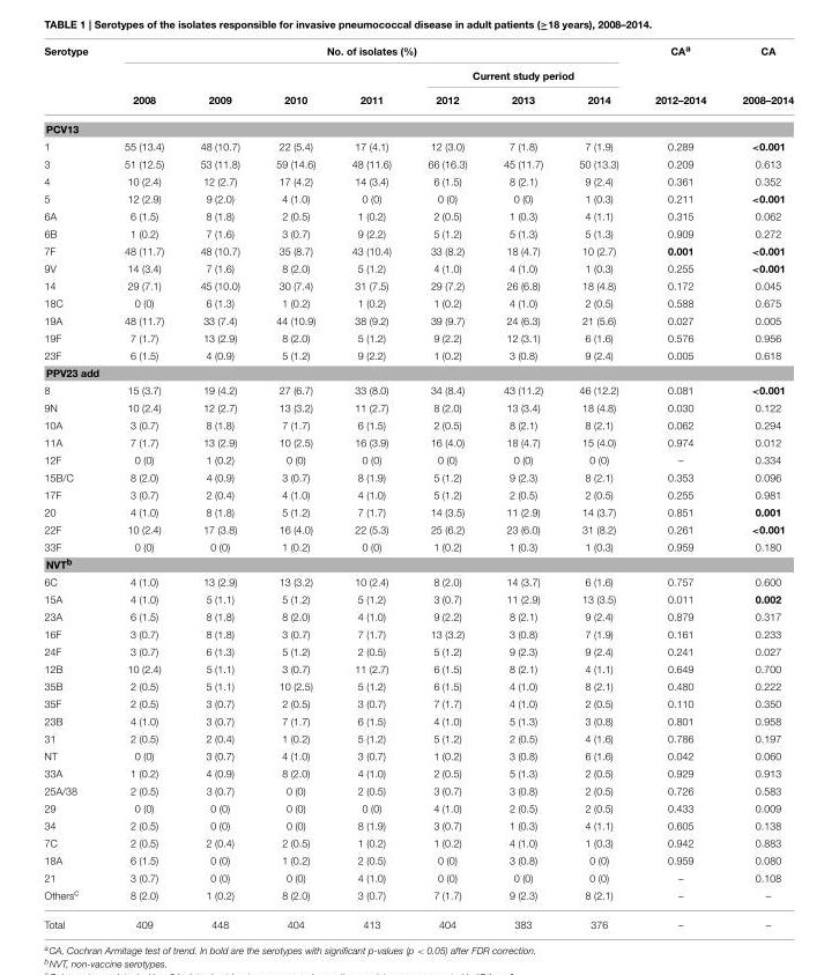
<table><thead><tr><td rowspan="3">Serotype</td><td colspan="7">No. of isolates (%)</td><td rowspan="3">CA<sup>a</sup> 2012–2014</td><td rowspan="3">CA 2008–2014</td></tr><tr><td rowspan="2">2008</td><td rowspan="2">2009</td><td rowspan="2">2010</td><td rowspan="2">2011</td><td colspan="3">Current study period</td></tr><tr><td>2012</td><td>2013</td><td>2014</td></tr></thead><tbody><tr><td colspan="10">PCV13</td></tr><tr><td>1</td><td>55 (13.4)</td><td>48 (10.7)</td><td>22 (5.4)</td><td>17 (4.1)</td><td>12 (3.0)</td><td>7 (1.8)</td><td>7 (1.9)</td><td>0.289</td><td>&lt;0.001</td></tr><tr><td>3</td><td>51 (12.5)</td><td>53 (11.8)</td><td>59 (14.6)</td><td>48 (11.6)</td><td>66 (16.3)</td><td>45 (11.7)</td><td>50 (13.3)</td><td>0.209</td><td>0.613</td></tr><tr><td>4</td><td>10 (2.4)</td><td>12 (2.7)</td><td>17 (4.2)</td><td>14 (3.4)</td><td>6 (1.5)</td><td>8 (2.1)</td><td>9 (2.4)</td><td>0.361</td><td>0.352</td></tr><tr><td>5</td><td>12 (2.9)</td><td>9 (2.0)</td><td>4 (1.0)</td><td>0 (0)</td><td>0 (0)</td><td>0 (0)</td><td>1 (0.3)</td><td>0.211</td><td>&lt;0.001</td></tr><tr><td>6A</td><td>6 (1.5)</td><td>8 (1.8)</td><td>2 (0.5)</td><td>1 (0.2)</td><td>2 (0.5)</td><td>1 (0.3)</td><td>4 (1.1)</td><td>0.315</td><td>0.062</td></tr><tr><td>6B</td><td>1 (0.2)</td><td>7 (1.6)</td><td>3 (0.7)</td><td>9 (2.2)</td><td>5 (1.2)</td><td>5 (1.3)</td><td>5 (1.3)</td><td>0.909</td><td>0.272</td></tr><tr><td>7F</td><td>48 (11.7)</td><td>48 (10.7)</td><td>35 (8.7)</td><td>43 (10.4)</td><td>33 (8.2)</td><td>18 (4.7)</td><td>10 (2.7)</td><td>0.001</td><td>&lt;0.001</td></tr><tr><td>9V</td><td>14 (3.4)</td><td>7 (1.6)</td><td>8 (2.0)</td><td>5 (1.2)</td><td>4 (1.0)</td><td>4 (1.0)</td><td>1 (0.3)</td><td>0.255</td><td>&lt;0.001</td></tr><tr><td>14</td><td>29 (7.1)</td><td>45 (10.0)</td><td>30 (7.4)</td><td>31 (7.5)</td><td>29 (7.2)</td><td>26 (6.8)</td><td>18 (4.8)</td><td>0.172</td><td>0.045</td></tr><tr><td>18C</td><td>0 (0)</td><td>6 (1.3)</td><td>1 (0.2)</td><td>1 (0.2)</td><td>1 (0.2)</td><td>4 (1.0)</td><td>2 (0.5)</td><td>0.588</td><td>0.675</td></tr><tr><td>19A</td><td>48 (11.7)</td><td>33 (7.4)</td><td>44 (10.9)</td><td>38 (9.2)</td><td>39 (9.7)</td><td>24 (6.3)</td><td>21 (5.6)</td><td>0.027</td><td>0.005</td></tr><tr><td>19F</td><td>7 (1.7)</td><td>13 (2.9)</td><td>8 (2.0)</td><td>5 (1.2)</td><td>9 (2.2)</td><td>12 (3.1)</td><td>6 (1.6)</td><td>0.576</td><td>0.956</td></tr><tr><td>23F</td><td>6 (1.5)</td><td>4 (0.9)</td><td>5 (1.2)</td><td>9 (2.2)</td><td>1 (0.2)</td><td>3 (0.8)</td><td>9 (2.4)</td><td>0.005</td><td>0.618</td></tr><tr><td colspan="10">PPV23 add</td></tr><tr><td>8</td><td>15 (3.7)</td><td>19 (4.2)</td><td>27 (6.7)</td><td>33 (8.0)</td><td>34 (8.4)</td><td>43 (11.2)</td><td>46 (12.2)</td><td>0.081</td><td>&lt;0.001</td></tr><tr><td>9N</td><td>10 (2.4)</td><td>12 (2.7)</td><td>13 (3.2)</td><td>11 (2.7)</td><td>8 (2.0)</td><td>13 (3.4)</td><td>18 (4.8)</td><td>0.030</td><td>0.122</td></tr><tr><td>10A</td><td>3 (0.7)</td><td>8 (1.8)</td><td>7 (1.7)</td><td>6 (1.5)</td><td>2 (0.5)</td><td>8 (2.1)</td><td>8 (2.1)</td><td>0.062</td><td>0.294</td></tr><tr><td>11A</td><td>7 (1.7)</td><td>13 (2.9)</td><td>10 (2.5)</td><td>16 (3.9)</td><td>16 (4.0)</td><td>18 (4.7)</td><td>15 (4.0)</td><td>0.974</td><td>0.012</td></tr><tr><td>12F</td><td>0 (0)</td><td>1 (0.2)</td><td>0 (0)</td><td>0 (0)</td><td>0 (0)</td><td>0 (0)</td><td>0 (0)</td><td>–</td><td>0.334</td></tr><tr><td>15B/C</td><td>8 (2.0)</td><td>4 (0.9)</td><td>3 (0.7)</td><td>8 (1.9)</td><td>5 (1.2)</td><td>9 (2.3)</td><td>8 (2.1)</td><td>0.353</td><td>0.096</td></tr><tr><td>17F</td><td>3 (0.7)</td><td>2 (0.4)</td><td>4 (1.0)</td><td>4 (1.0)</td><td>5 (1.2)</td><td>2 (0.5)</td><td>2 (0.5)</td><td>0.255</td><td>0.981</td></tr><tr><td>20</td><td>4 (1.0)</td><td>8 (1.8)</td><td>5 (1.2)</td><td>7 (1.7)</td><td>14 (3.5)</td><td>11 (2.9)</td><td>14 (3.7)</td><td>0.851</td><td>0.001</td></tr><tr><td>22F</td><td>10 (2.4)</td><td>17 (3.8)</td><td>16 (4.0)</td><td>22 (5.3)</td><td>25 (6.2)</td><td>23 (6.0)</td><td>31 (8.2)</td><td>0.261</td><td>&lt;0.001</td></tr><tr><td>33F</td><td>0 (0)</td><td>0 (0)</td><td>1 (0.2)</td><td>0 (0)</td><td>1 (0.2)</td><td>1 (0.3)</td><td>1 (0.3)</td><td>0.959</td><td>0.180</td></tr><tr><td colspan="10">NVT<sup>b</sup></td></tr><tr><td>6C</td><td>4 (1.0)</td><td>13 (2.9)</td><td>13 (3.2)</td><td>10 (2.4)</td><td>8 (2.0)</td><td>14 (3.7)</td><td>6 (1.6)</td><td>0.757</td><td>0.600</td></tr><tr><td>15A</td><td>4 (1.0)</td><td>5 (1.1)</td><td>5 (1.2)</td><td>5 (1.2)</td><td>3 (0.7)</td><td>11 (2.9)</td><td>13 (3.5)</td><td>0.011</td><td>0.002</td></tr><tr><td>23A</td><td>6 (1.5)</td><td>8 (1.8)</td><td>8 (2.0)</td><td>4 (1.0)</td><td>9 (2.2)</td><td>8 (2.1)</td><td>9 (2.4)</td><td>0.879</td><td>0.317</td></tr><tr><td>16F</td><td>3 (0.7)</td><td>8 (1.8)</td><td>3 (0.7)</td><td>7 (1.7)</td><td>13 (3.2)</td><td>3 (0.8)</td><td>7 (1.9)</td><td>0.161</td><td>0.233</td></tr><tr><td>24F</td><td>3 (0.7)</td><td>6 (1.3)</td><td>5 (1.2)</td><td>2 (0.5)</td><td>5 (1.2)</td><td>9 (2.3)</td><td>9 (2.4)</td><td>0.241</td><td>0.027</td></tr><tr><td>12B</td><td>10 (2.4)</td><td>5 (1.1)</td><td>3 (0.7)</td><td>11 (2.7)</td><td>6 (1.5)</td><td>8 (2.1)</td><td>4 (1.1)</td><td>0.649</td><td>0.700</td></tr><tr><td>35B</td><td>2 (0.5)</td><td>5 (1.1)</td><td>10 (2.5)</td><td>5 (1.2)</td><td>6 (1.5)</td><td>4 (1.0)</td><td>8 (2.1)</td><td>0.480</td><td>0.222</td></tr><tr><td>35F</td><td>2 (0.5)</td><td>3 (0.7)</td><td>2 (0.5)</td><td>3 (0.7)</td><td>7 (1.7)</td><td>4 (1.0)</td><td>2 (0.5)</td><td>0.110</td><td>0.350</td></tr><tr><td>23B</td><td>4 (1.0)</td><td>3 (0.7)</td><td>7 (1.7)</td><td>6 (1.5)</td><td>4 (1.0)</td><td>5 (1.3)</td><td>3 (0.8)</td><td>0.801</td><td>0.958</td></tr><tr><td>31</td><td>2 (0.5)</td><td>2 (0.4)</td><td>1 (0.2)</td><td>5 (1.2)</td><td>5 (1.2)</td><td>2 (0.5)</td><td>4 (1.6)</td><td>0.786</td><td>0.197</td></tr><tr><td>NT</td><td>0 (0)</td><td>3 (0.7)</td><td>4 (1.0)</td><td>3 (0.7)</td><td>1 (0.2)</td><td>3 (0.8)</td><td>6 (1.6)</td><td>0.042</td><td>0.060</td></tr><tr><td>33A</td><td>1 (0.2)</td><td>4 (0.9)</td><td>8 (2.0)</td><td>4 (1.0)</td><td>2 (0.5)</td><td>5 (1.3)</td><td>2 (0.5)</td><td>0.929</td><td>0.913</td></tr><tr><td>25A/38</td><td>2 (0.5)</td><td>3 (0.7)</td><td>0 (0)</td><td>2 (0.5)</td><td>3 (0.7)</td><td>3 (0.8)</td><td>2 (0.5)</td><td>0.726</td><td>0.583</td></tr><tr><td>29</td><td>0 (0)</td><td>0 (0)</td><td>0 (0)</td><td>0 (0)</td><td>4 (1.0)</td><td>2 (0.5)</td><td>2 (0.5)</td><td>0.433</td><td>0.009</td></tr><tr><td>34</td><td>2 (0.5)</td><td>0 (0)</td><td>0 (0)</td><td>8 (1.9)</td><td>3 (0.7)</td><td>1 (0.3)</td><td>4 (1.1)</td><td>0.605</td><td>0.138</td></tr><tr><td>7C</td><td>2 (0.5)</td><td>2 (0.4)</td><td>2 (0.5)</td><td>1 (0.2)</td><td>1 (0.2)</td><td>4 (1.0)</td><td>1 (0.3)</td><td>0.942</td><td>0.883</td></tr><tr><td>18A</td><td>6 (1.5)</td><td>0 (0)</td><td>1 (0.2)</td><td>2 (0.5)</td><td>0 (0)</td><td>3 (0.8)</td><td>0 (0)</td><td>0.959</td><td>0.080</td></tr><tr><td>21</td><td>3 (0.7)</td><td>0 (0)</td><td>0 (0)</td><td>4 (1.0)</td><td>0 (0)</td><td>0 (0)</td><td>0 (0)</td><td>–</td><td>0.108</td></tr><tr><td>Others<sup>c</sup></td><td>8 (2.0)</td><td>1 (0.2)</td><td>8 (2.0)</td><td>3 (0.7)</td><td>7 (1.7)</td><td>9 (2.3)</td><td>8 (2.1)</td><td>–</td><td>–</td></tr><tr><td>Total</td><td>409</td><td>448</td><td>404</td><td>413</td><td>404</td><td>383</td><td>376</td><td>–</td><td>–</td></tr></tbody></table>